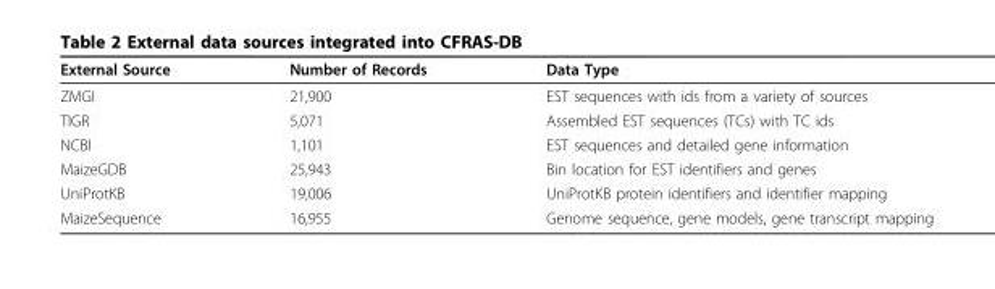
<table><thead><tr><td>External Source</td><td>Number of Records</td><td>Data Type</td></tr></thead><tbody><tr><td>ZMGI</td><td>21,900</td><td>EST sequences with ids from a variety of sources</td></tr><tr><td>TIGR</td><td>5,071</td><td>Assembled EST sequences (TCs) with TC ids</td></tr><tr><td>NCBI</td><td>1,101</td><td>EST sequences and detailed gene information</td></tr><tr><td>MaizeGDB</td><td>25,943</td><td>Bin location for EST identifiers and genes</td></tr><tr><td>UniProtKB</td><td>19,006</td><td>UniProtKB protein identifiers and identifier mapping</td></tr><tr><td>MaizeSequence</td><td>16,955</td><td>Genome sequence, gene models, gene transcript mapping</td></tr></tbody></table>